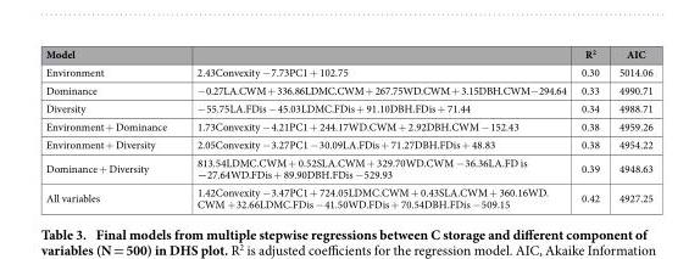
<table><thead><tr><td>Model</td><td></td><td>R<sup>2</sup></td><td>AIC</td></tr></thead><tbody><tr><td>Environment</td><td>2.43Convexity − 7.73PC1 + 102.75</td><td>0.30</td><td>5014.06</td></tr><tr><td>Dominance</td><td>− 0.27LA.CWM + 336.86LDMC.CWM + 267.75WD.CWM + 3.15DBH.CWM− 294.64</td><td>0.33</td><td>4990.71</td></tr><tr><td>Diversity</td><td>− 55.75LA.FDis − 45.03LDMC.FDis + 91.10DBH.FDis + 71.44</td><td>0.34</td><td>4988.71</td></tr><tr><td>Environment + Dominance</td><td>1.73Convexity − 4.21PC1 + 244.17WD.CWM + 2.92DBH.CWM − 152.43</td><td>0.38</td><td>4959.26</td></tr><tr><td>Environment + Diversity</td><td>2.05Convexity − 3.27PC1 − 30.09LA.FDis + 71.27DBH.FDis + 48.83</td><td>0.38</td><td>4954.22</td></tr><tr><td>Dominance + Diversity</td><td>813.54LDMC.CWM + 0.52SLA.CWM + 329.70WD.CWM − 36.36LA.FD is −27.64WD.FDis + 89.90DBH.FDis − 529.93</td><td>0.39</td><td>4948.63</td></tr><tr><td>All variables</td><td>1.42Convexity − 3.47PC1 + 724.05LDMC.CWM + 0.43SLA.CWM + 360.16WD. CWM + 32.66LDMC.FDis − 41.50WD.FDis + 70.54DBH.FDis − 509.15</td><td>0.42</td><td>4927.25</td></tr></tbody></table>